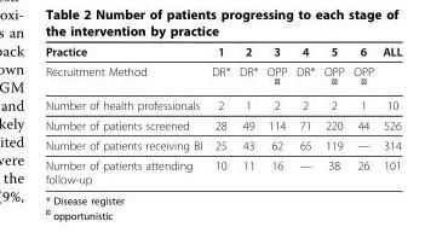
<table><thead><tr><td>Practice</td><td>1</td><td>2</td><td>3</td><td>4</td><td>5</td><td>6</td><td>ALL</td></tr></thead><tbody><tr><td>Recruitment Method</td><td>DR*</td><td>DR*</td><td>OPP <sup>∓</sup></td><td>DR*</td><td>OPP <sup>∓</sup></td><td>OPP <sup>∓</sup></td><td></td></tr><tr><td>Number of health professionals</td><td>2</td><td>1</td><td>2</td><td>2</td><td>2</td><td>1</td><td>10</td></tr><tr><td>Number of patients screened</td><td>28</td><td>49</td><td>114</td><td>71</td><td>220</td><td>44</td><td>526</td></tr><tr><td>Number of patients receiving BI</td><td>25</td><td>43</td><td>62</td><td>65</td><td>119</td><td>—</td><td>314</td></tr><tr><td>Number of patients attending follow-up</td><td>10</td><td>11</td><td>16</td><td>—</td><td>38</td><td>26</td><td>101</td></tr></tbody></table>